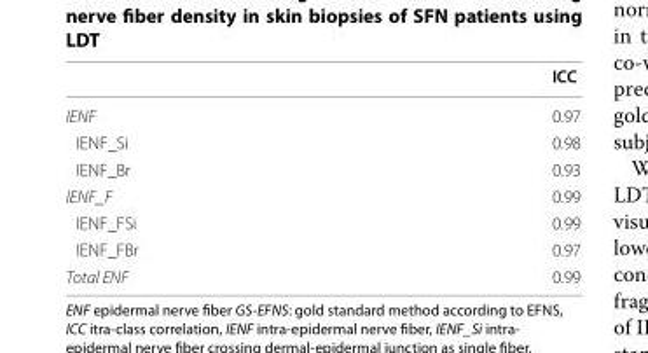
<table><thead><tr><td></td><td>ICC</td></tr></thead><tbody><tr><td>IENF</td><td>0.97</td></tr><tr><td>IENF_Si</td><td>0.98</td></tr><tr><td>IENF_Br</td><td>0.93</td></tr><tr><td>IENF_F</td><td>0.99</td></tr><tr><td>IENF_FSi</td><td>0.99</td></tr><tr><td>IENF_FBr</td><td>0.97</td></tr><tr><td>Total ENF</td><td>0.99</td></tr></tbody></table>